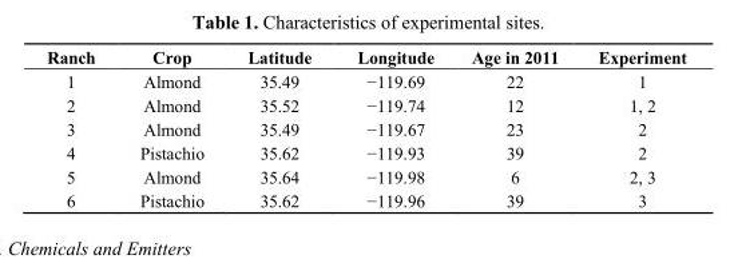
<table><thead><tr><td>Ranch</td><td>Crop</td><td>Latitude</td><td>Longitude</td><td>Age in 2011</td><td>Experiment</td></tr></thead><tbody><tr><td>1</td><td>Almond</td><td>35.49</td><td>−119.69</td><td>22</td><td>1</td></tr><tr><td>2</td><td>Almond</td><td>35.52</td><td>−119.74</td><td>12</td><td>1, 2</td></tr><tr><td>3</td><td>Almond</td><td>35.49</td><td>−119.67</td><td>23</td><td>2</td></tr><tr><td>4</td><td>Pistachio</td><td>35.62</td><td>−119.93</td><td>39</td><td>2</td></tr><tr><td>5</td><td>Almond</td><td>35.64</td><td>−119.98</td><td>6</td><td>2, 3</td></tr><tr><td>6</td><td>Pistachio</td><td>35.62</td><td>−119.96</td><td>39</td><td>3</td></tr></tbody></table>